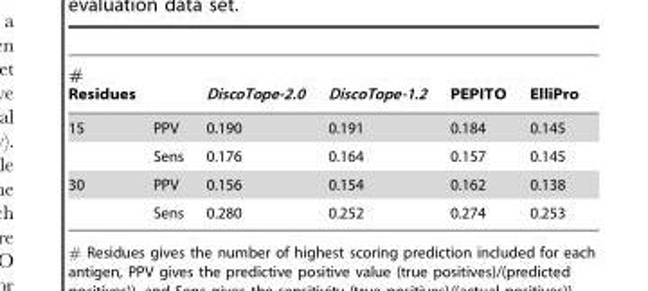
<table><thead><tr><td># Residues</td><td></td><td>DiscoTope-2.0</td><td>DiscoTope-1.2</td><td>PEPITO</td><td>ElliPro</td></tr></thead><tbody><tr><td rowspan="2">15</td><td>PPV</td><td>0.190</td><td>0.191</td><td>0.184</td><td>0.145</td></tr><tr><td>Sens</td><td>0.176</td><td>0.164</td><td>0.157</td><td>0.145</td></tr><tr><td rowspan="2">30</td><td>PPV</td><td>0.156</td><td>0.154</td><td>0.162</td><td>0.138</td></tr><tr><td>Sens</td><td>0.280</td><td>0.252</td><td>0.274</td><td>0.253</td></tr></tbody></table>